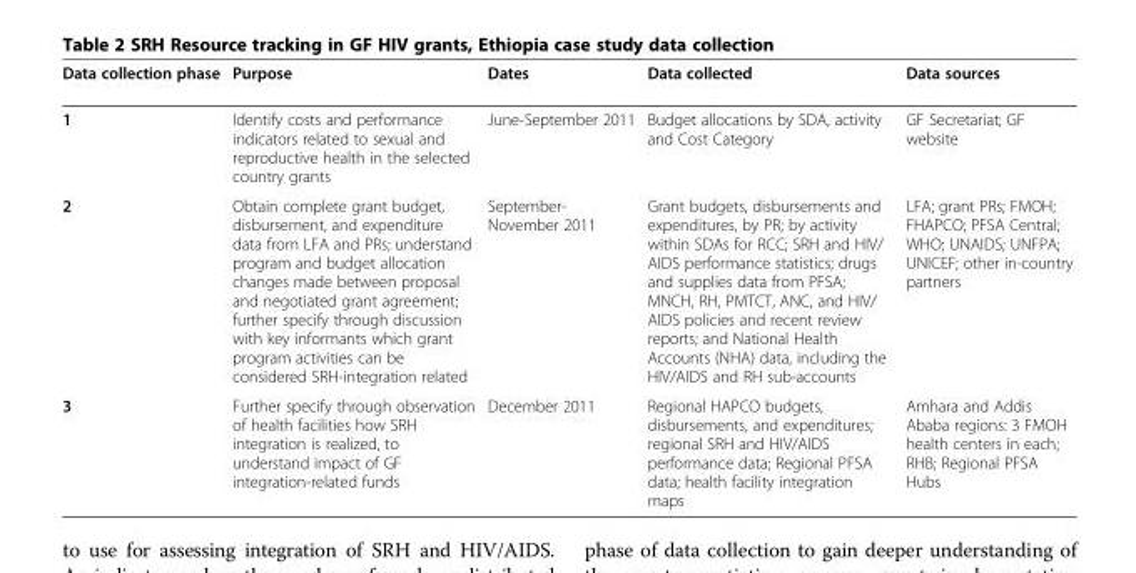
<table><thead><tr><td>Data collection phase</td><td>Purpose</td><td>Dates</td><td>Data collected</td><td>Data sources</td></tr></thead><tbody><tr><td>1</td><td>Identify costs and performance indicators related to sexual and reproductive health in the selected country grants</td><td>June-September 2011</td><td>Budget allocations by SDA, activity and Cost Category</td><td>GF Secretariat; GF website</td></tr><tr><td>2</td><td>Obtain complete grant budget, disbursement, and expenditure data from LFA and PRs; understand program and budget allocation changes made between proposal and negotiated grant agreement; further specify through discussion with key informants which grant program activities can be considered SRH-integration related</td><td>September- November 2011</td><td>Grant budgets, disbursements and expenditures, by PR; by activity within SDAs for RCC; SRH and HIV/ AIDS performance statistics; drugs and supplies data from PFSA; MNCH, RH, PMTCT, ANC, and HIV/ AIDS policies and recent review reports; and National Health Accounts (NHA) data, including the HIV/AIDS and RH sub-accounts</td><td>LFA; grant PRs; FMOH; FHAPCO; PFSA Central; WHO; UNAIDS; UNFPA; UNICEF; other in-country partners</td></tr><tr><td>3</td><td>Further specify through observation of health facilities how SRH integration is realized, to understand impact of GF integration-related funds</td><td>December 2011</td><td>Regional HAPCO budgets, disbursements, and expenditures; regional SRH and HIV/AIDS performance data; Regional PFSA data; health facility integration maps</td><td>Amhara and Addis Ababa regions: 3 FMOH health centers in each; RHB; Regional PFSA Hubs</td></tr></tbody></table>